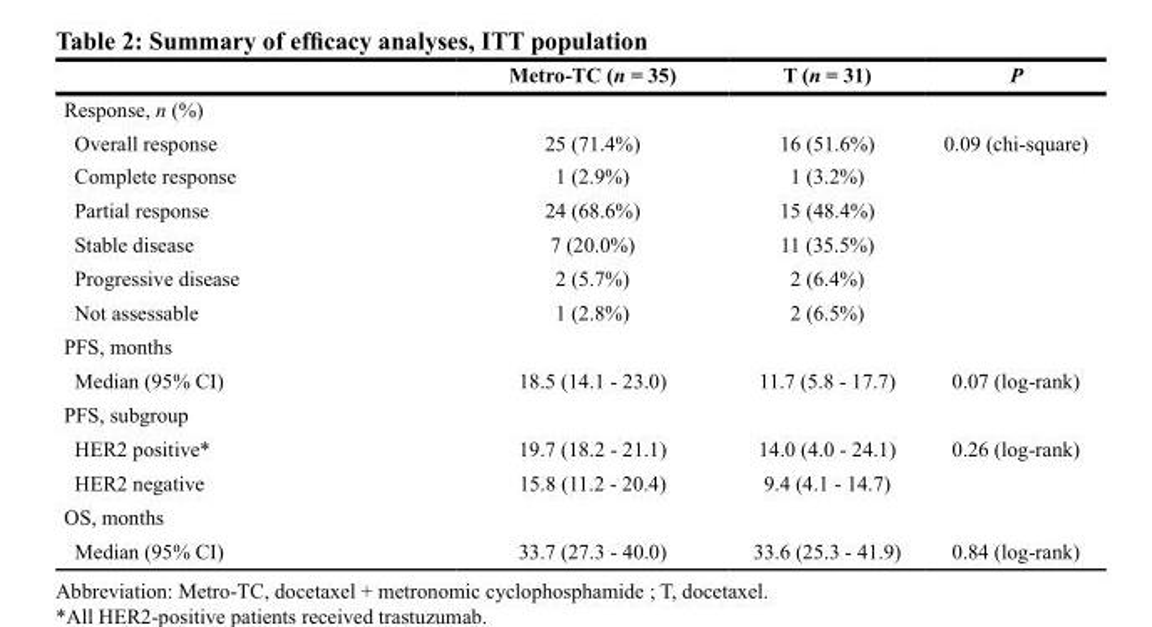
<table><thead><tr><td></td><td>Metro-TC (n = 35)</td><td>T (n = 31)</td><td>P</td></tr></thead><tbody><tr><td colspan="4">Response, n (%)</td></tr><tr><td>Overall response</td><td>25 (71.4%)</td><td>16 (51.6%)</td><td>0.09 (chi-square)</td></tr><tr><td>Complete response</td><td>1 (2.9%)</td><td>1 (3.2%)</td><td></td></tr><tr><td>Partial response</td><td>24 (68.6%)</td><td>15 (48.4%)</td><td></td></tr><tr><td>Stable disease</td><td>7 (20.0%)</td><td>11 (35.5%)</td><td></td></tr><tr><td>Progressive disease</td><td>2 (5.7%)</td><td>2 (6.4%)</td><td></td></tr><tr><td>Not assessable</td><td>1 (2.8%)</td><td>2 (6.5%)</td><td></td></tr><tr><td colspan="4">PFS, months</td></tr><tr><td>Median (95% CI)</td><td>18.5 (14.1 - 23.0)</td><td>11.7 (5.8 - 17.7)</td><td>0.07 (log-rank)</td></tr><tr><td colspan="4">PFS, subgroup</td></tr><tr><td>HER2 positive*</td><td>19.7 (18.2 - 21.1)</td><td>14.0 (4.0 - 24.1)</td><td>0.26 (log-rank)</td></tr><tr><td>HER2 negative</td><td>15.8 (11.2 - 20.4)</td><td>9.4 (4.1 - 14.7)</td><td></td></tr><tr><td colspan="4">OS, months</td></tr><tr><td>Median (95% CI)</td><td>33.7 (27.3 - 40.0)</td><td>33.6 (25.3 - 41.9)</td><td>0.84 (log-rank)</td></tr></tbody></table>